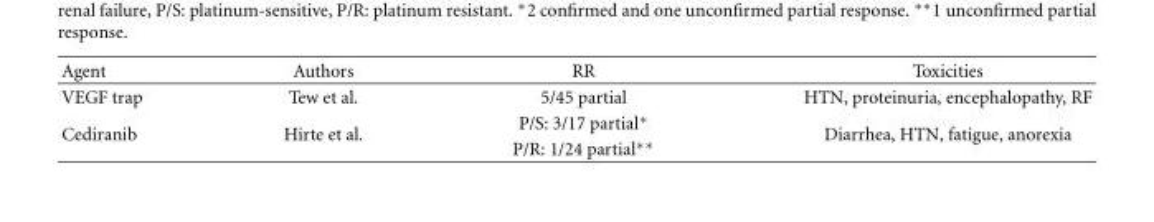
<table><thead><tr><td>Agent</td><td>Authors</td><td>RR</td><td>Toxicities</td></tr></thead><tbody><tr><td>VEGF trap</td><td>Tew et al.</td><td>5/45 partial</td><td>HTN, proteinuria, encephalopathy, RF</td></tr><tr><td rowspan="2">Cediranib</td><td rowspan="2">Hirte et al.</td><td>P/S: 3/17 partial∗</td><td rowspan="2">Diarrhea, HTN, fatigue, anorexia</td></tr><tr><td>P/R: 1/24 partial∗∗</td></tr></tbody></table>